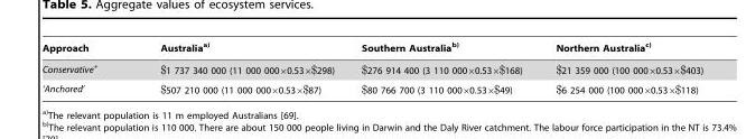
<table><thead><tr><td>Approach</td><td>Australiaa)</td><td>Southern Australiab)</td><td>Northern Australiac)</td></tr></thead><tbody><tr><td>Conservative+</td><td>$1 737 340 000 (11 000 000×0.53×$298)</td><td>$276 914 400 (3 110 000×0.53×$168)</td><td>$21 359 000 (100 000×0.53×$403)</td></tr><tr><td>‘Anchored’</td><td>$507 210 000 (11 000 000×0.53×$87)</td><td>$80 766 700 (3 110 000×0.53×$49)</td><td>$6 254 000 (100 000×0.53×$118)</td></tr></tbody></table>